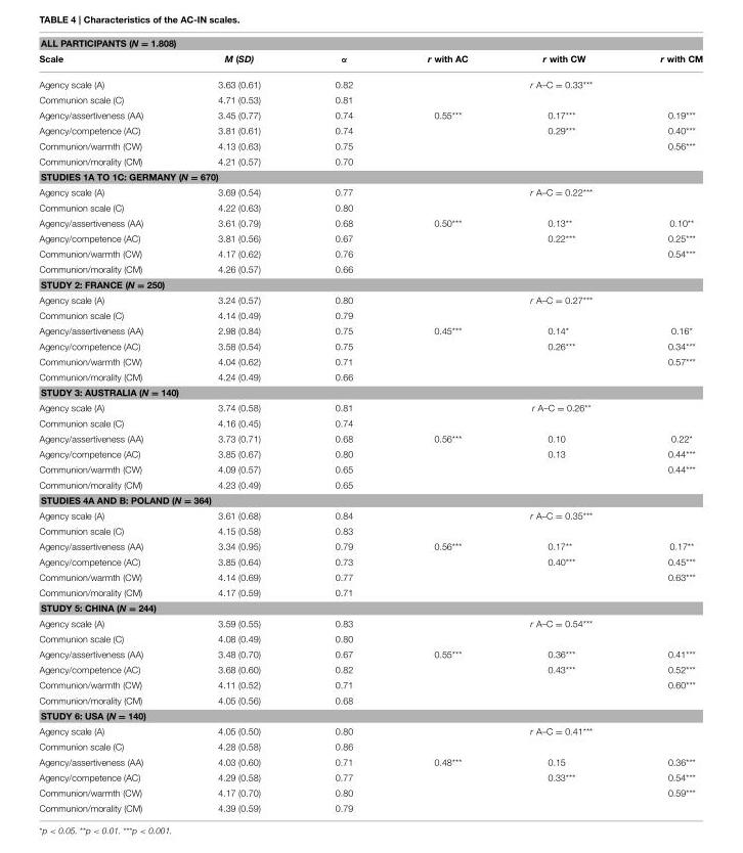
<table><thead><tr><td colspan="6">ALL PARTICIPANTS (N = 1.808)</td></tr><tr><td>Scale</td><td>M (SD)</td><td>α</td><td>r with AC</td><td>r with CW</td><td>r with CM</td></tr></thead><tbody><tr><td>Agency scale (A)</td><td>3.63 (0.61)</td><td>0.82</td><td colspan="3">r A–C = 0.33***</td></tr><tr><td>Communion scale (C)</td><td>4.71 (0.53)</td><td>0.81</td><td></td><td></td><td></td></tr><tr><td>Agency/assertiveness (AA)</td><td>3.45 (0.77)</td><td>0.74</td><td>0.55***</td><td>0.17***</td><td>0.19***</td></tr><tr><td>Agency/competence (AC)</td><td>3.81 (0.61)</td><td>0.74</td><td></td><td>0.29***</td><td>0.40***</td></tr><tr><td>Communion/warmth (CW)</td><td>4.13 (0.63)</td><td>0.75</td><td></td><td></td><td>0.56***</td></tr><tr><td>Communion/morality (CM)</td><td>4.21 (0.57)</td><td>0.70</td><td></td><td></td><td></td></tr><tr><td colspan="6">STUDIES 1A TO 1C: GERMANY (N = 670)</td></tr><tr><td>Agency scale (A)</td><td>3.69 (0.54)</td><td>0.77</td><td colspan="3">r A–C = 0.22***</td></tr><tr><td>Communion scale (C)</td><td>4.22 (0.63)</td><td>0.80</td><td></td><td></td><td></td></tr><tr><td>Agency/assertiveness (AA)</td><td>3.61 (0.79)</td><td>0.68</td><td>0.50***</td><td>0.13**</td><td>0.10**</td></tr><tr><td>Agency/competence (AC)</td><td>3.81 (0.56)</td><td>0.67</td><td></td><td>0.22***</td><td>0.25***</td></tr><tr><td>Communion/warmth (CW)</td><td>4.17 (0.62)</td><td>0.76</td><td></td><td></td><td>0.54***</td></tr><tr><td>Communion/morality (CM)</td><td>4.26 (0.57)</td><td>0.66</td><td></td><td></td><td></td></tr><tr><td colspan="6">STUDY 2: FRANCE (N = 250)</td></tr><tr><td>Agency scale (A)</td><td>3.24 (0.57)</td><td>0.80</td><td colspan="3">r A–C = 0.27***</td></tr><tr><td>Communion scale (C)</td><td>4.14 (0.49)</td><td>0.79</td><td></td><td></td><td></td></tr><tr><td>Agency/assertiveness (AA)</td><td>2.98 (0.84)</td><td>0.75</td><td>0.45***</td><td>0.14*</td><td>0.16*</td></tr><tr><td>Agency/competence (AC)</td><td>3.58 (0.54)</td><td>0.75</td><td></td><td>0.26***</td><td>0.34***</td></tr><tr><td>Communion/warmth (CW)</td><td>4.04 (0.62)</td><td>0.71</td><td></td><td></td><td>0.57***</td></tr><tr><td>Communion/morality (CM)</td><td>4.24 (0.49)</td><td>0.66</td><td></td><td></td><td></td></tr><tr><td colspan="6">STUDY 3: AUSTRALIA (N = 140)</td></tr><tr><td>Agency scale (A)</td><td>3.74 (0.58)</td><td>0.81</td><td colspan="3">r A–C = 0.26**</td></tr><tr><td>Communion scale (C)</td><td>4.16 (0.45)</td><td>0.74</td><td></td><td></td><td></td></tr><tr><td>Agency/assertiveness (AA)</td><td>3.73 (0.71)</td><td>0.68</td><td>0.56***</td><td>0.10</td><td>0.22*</td></tr><tr><td>Agency/competence (AC)</td><td>3.85 (0.67)</td><td>0.80</td><td></td><td>0.13</td><td>0.44***</td></tr><tr><td>Communion/warmth (CW)</td><td>4.09 (0.57)</td><td>0.65</td><td></td><td></td><td>0.44***</td></tr><tr><td>Communion/morality (CM)</td><td>4.23 (0.49)</td><td>0.65</td><td></td><td></td><td></td></tr><tr><td colspan="6">STUDIES 4A AND B: POLAND (N = 364)</td></tr><tr><td>Agency scale (A)</td><td>3.61 (0.68)</td><td>0.84</td><td colspan="3">r A–C = 0.35***</td></tr><tr><td>Communion scale (C)</td><td>4.15 (0.58)</td><td>0.83</td><td></td><td></td><td></td></tr><tr><td>Agency/assertiveness (AA)</td><td>3.34 (0.95)</td><td>0.79</td><td>0.56***</td><td>0.17**</td><td>0.17**</td></tr><tr><td>Agency/competence (AC)</td><td>3.85 (0.64)</td><td>0.73</td><td></td><td>0.40***</td><td>0.45***</td></tr><tr><td>Communion/warmth (CW)</td><td>4.14 (0.69)</td><td>0.77</td><td></td><td></td><td>0.63***</td></tr><tr><td>Communion/morality (CM)</td><td>4.17 (0.59)</td><td>0.71</td><td></td><td></td><td></td></tr><tr><td colspan="6">STUDY 5: CHINA (N = 244)</td></tr><tr><td>Agency scale (A)</td><td>3.59 (0.55)</td><td>0.83</td><td colspan="3">r A–C = 0.54***</td></tr><tr><td>Communion scale (C)</td><td>4.08 (0.49)</td><td>0.80</td><td></td><td></td><td></td></tr><tr><td>Agency/assertiveness (AA)</td><td>3.48 (0.70)</td><td>0.67</td><td>0.55***</td><td>0.36***</td><td>0.41***</td></tr><tr><td>Agency/competence (AC)</td><td>3.68 (0.60)</td><td>0.82</td><td></td><td>0.43***</td><td>0.52***</td></tr><tr><td>Communion/warmth (CW)</td><td>4.11 (0.52)</td><td>0.71</td><td></td><td></td><td>0.60***</td></tr><tr><td>Communion/morality (CM)</td><td>4.05 (0.56)</td><td>0.68</td><td></td><td></td><td></td></tr><tr><td colspan="6">STUDY 6: USA (N = 140)</td></tr><tr><td>Agency scale (A)</td><td>4.05 (0.50)</td><td>0.80</td><td colspan="3">r A–C = 0.41***</td></tr><tr><td>Communion scale (C)</td><td>4.28 (0.58)</td><td>0.86</td><td></td><td></td><td></td></tr><tr><td>Agency/assertiveness (AA)</td><td>4.03 (0.60)</td><td>0.71</td><td>0.48***</td><td>0.15</td><td>0.36***</td></tr><tr><td>Agency/competence (AC)</td><td>4.29 (0.58)</td><td>0.77</td><td></td><td>0.33***</td><td>0.54***</td></tr><tr><td>Communion/warmth (CW)</td><td>4.17 (0.70)</td><td>0.80</td><td></td><td></td><td>0.59***</td></tr><tr><td>Communion/morality (CM)</td><td>4.39 (0.59)</td><td>0.79</td><td></td><td></td><td></td></tr></tbody></table>